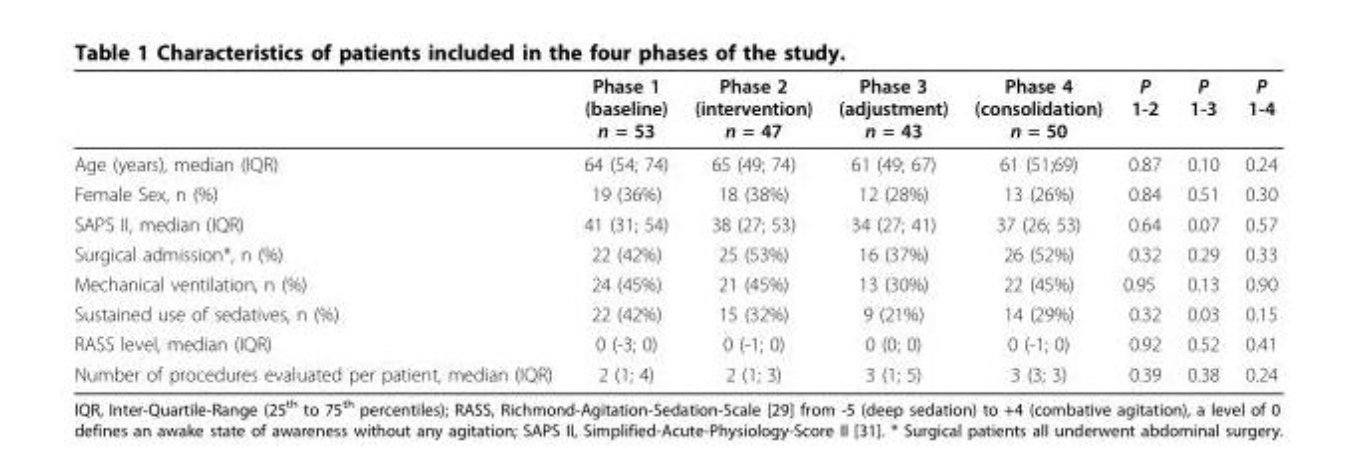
<table><thead><tr><td></td><td>Phase 1 (baseline) n = 53</td><td>Phase 2 (intervention) n = 47</td><td>Phase 3 (adjustment) n = 43</td><td>Phase 4 (consolidation) n = 50</td><td>P 1-2</td><td>P 1-3</td><td>P 1-4</td></tr></thead><tbody><tr><td>Age (years), median (IQR)</td><td>64 (54; 74)</td><td>65 (49; 74)</td><td>61 (49; 67)</td><td>61 (51;69)</td><td>0.87</td><td>0.10</td><td>0.24</td></tr><tr><td>Female Sex, n (%)</td><td>19 (36%)</td><td>18 (38%)</td><td>12 (28%)</td><td>13 (26%)</td><td>0.84</td><td>0.51</td><td>0.30</td></tr><tr><td>SAPS II, median (IQR)</td><td>41 (31; 54)</td><td>38 (27; 53)</td><td>34 (27; 41)</td><td>37 (26; 53)</td><td>0.64</td><td>0.07</td><td>0.57</td></tr><tr><td>Surgical admission*, n (%)</td><td>22 (42%)</td><td>25 (53%)</td><td>16 (37%)</td><td>26 (52%)</td><td>0.32</td><td>0.29</td><td>0.33</td></tr><tr><td>Mechanical ventilation, n (%)</td><td>24 (45%)</td><td>21 (45%)</td><td>13 (30%)</td><td>22 (45%)</td><td>0.95</td><td>0.13</td><td>0.90</td></tr><tr><td>Sustained use of sedatives, n (%)</td><td>22 (42%)</td><td>15 (32%)</td><td>9 (21%)</td><td>14 (29%)</td><td>0.32</td><td>0.03</td><td>0.15</td></tr><tr><td>RASS level, median (IQR)</td><td>0 (-3; 0)</td><td>0 (-1; 0)</td><td>0 (0; 0)</td><td>0 (-1; 0)</td><td>0.92</td><td>0.52</td><td>0.41</td></tr><tr><td>Number of procedures evaluated per patient, median (IQR)</td><td>2 (1; 4)</td><td>2 (1; 3)</td><td>3 (1; 5)</td><td>3 (3; 3)</td><td>0.39</td><td>0.38</td><td>0.24</td></tr></tbody></table>